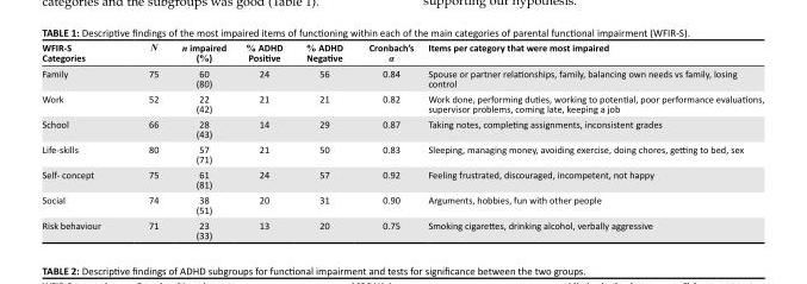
<table><thead><tr><td>WFIR-S Categories</td><td>N</td><td>n impaired (%)</td><td>% ADHD Positive</td><td>% ADHD Negative</td><td>Cronbach’s α</td><td>Items per category that were most impaired</td></tr></thead><tbody><tr><td>Family</td><td>75</td><td>60 (80)</td><td>24</td><td>56</td><td>0.84</td><td>Spouse or partner relationships, family, balancing own needs vs family, losing control</td></tr><tr><td>Work</td><td>52</td><td>22 (42)</td><td>21</td><td>21</td><td>0.82</td><td>Work done, performing duties, working to potential, poor performance evaluations, supervisor problems, coming late, keeping a job</td></tr><tr><td>School</td><td>66</td><td>28 (43)</td><td>14</td><td>29</td><td>0.87</td><td>Taking notes, completing assignments, inconsistent grades</td></tr><tr><td>Life-skills</td><td>80</td><td>57 (71)</td><td>21</td><td>50</td><td>0.83</td><td>Sleeping, managing money, avoiding exercise, doing chores, getting to bed, sex</td></tr><tr><td>Self- concept</td><td>75</td><td>61 (81)</td><td>24</td><td>57</td><td>0.92</td><td>Feeling frustrated, discouraged, incompetent, not happy</td></tr><tr><td>Social</td><td>74</td><td>38 (51)</td><td>20</td><td>31</td><td>0.90</td><td>Arguments, hobbies, fun with other people</td></tr><tr><td>Risk behaviour</td><td>71</td><td>23 (33)</td><td>13</td><td>20</td><td>0.75</td><td>Smoking cigarettes, drinking alcohol, verbally aggressive</td></tr></tbody></table>